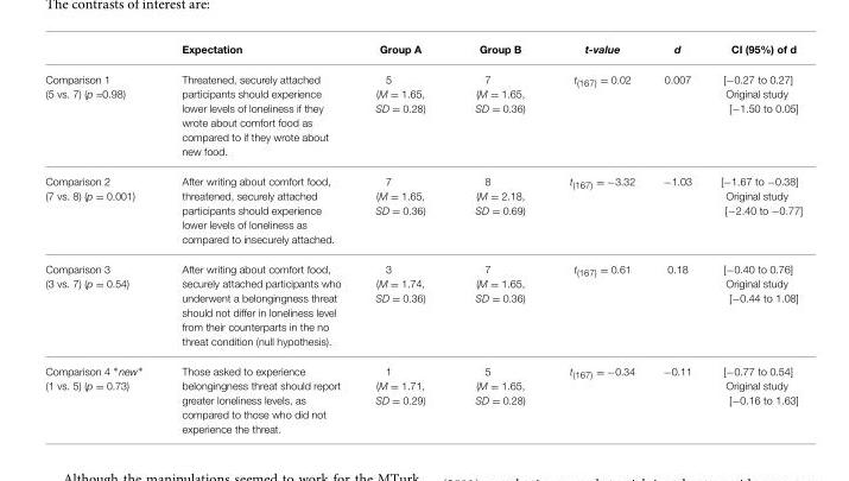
<table><thead><tr><td></td><td>Expectation</td><td>Group A</td><td>Group B</td><td>t-value</td><td>d</td><td>CI (95%) of d</td></tr></thead><tbody><tr><td>Comparison 1 (5 vs. 7) (p =0.98)</td><td>Threatened, securely attached participants should experience lower levels of loneliness if they wrote about comfort food as compared to if they wrote about new food.</td><td>5 (M = 1.65, SD = 0.28)</td><td>7 (M = 1.65, SD = 0.36)</td><td>t<sub>(167)</sub> = 0.02</td><td>0.007</td><td>[−0.27 to 0.27] Original study [−1.50 to 0.05]</td></tr><tr><td>Comparison 2 (7 vs. 8) (p = 0.001)</td><td>After writing about comfort food, threatened, securely attached participants should experience lower levels of loneliness as compared to insecurely attached.</td><td>7 (M = 1.65, SD = 0.36)</td><td>8 (M = 2.18, SD = 0.69)</td><td>t<sub>(167)</sub> = −3.32</td><td>−1.03</td><td>[−1.67 to −0.38] Original study [−2.40 to −0.77]</td></tr><tr><td>Comparison 3 (3 vs. 7) (p = 0.54)</td><td>After writing about comfort food, securely attached participants who underwent a belongingness threat should not differ in loneliness level from their counterparts in the no threat condition (null hypothesis).</td><td>3 (M = 1.74, SD = 0.36)</td><td>7 (M = 1.65, SD = 0.36)</td><td>t<sub>(167)</sub> = 0.61</td><td>0.18</td><td>[−0.40 to 0.76] Original study [−0.44 to 1.08]</td></tr><tr><td>Comparison 4 ∗new∗ (1 vs. 5) (p = 0.73)</td><td>Those asked to experience belongingness threat should report greater loneliness levels, as compared to those who did not experience the threat.</td><td>1 (M = 1.71, SD = 0.29)</td><td>5 (M = 1.65, SD = 0.28)</td><td>t<sub>(167)</sub> = −0.34</td><td>−0.11</td><td>[−0.77 to 0.54] Original study [−0.16 to 1.63]</td></tr></tbody></table>